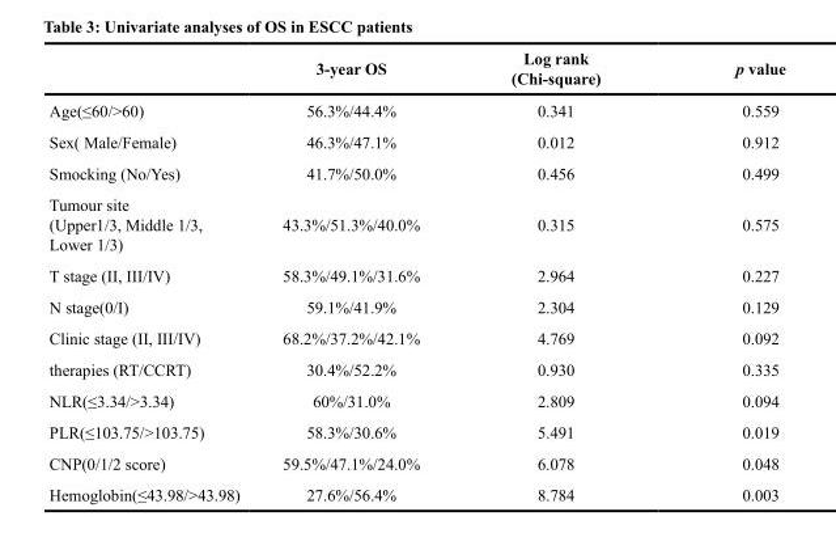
<table><thead><tr><td></td><td>3-year OS</td><td>Log rank (Chi-square)</td><td>p value</td></tr></thead><tbody><tr><td>Age(≤60/&gt;60)</td><td>56.3%/44.4%</td><td>0.341</td><td>0.559</td></tr><tr><td>Sex( Male/Female)</td><td>46.3%/47.1%</td><td>0.012</td><td>0.912</td></tr><tr><td>Smocking (No/Yes)</td><td>41.7%/50.0%</td><td>0.456</td><td>0.499</td></tr><tr><td>Tumour site (Upper1/3, Middle 1/3, Lower 1/3)</td><td>43.3%/51.3%/40.0%</td><td>0.315</td><td>0.575</td></tr><tr><td>T stage (II, III/IV)</td><td>58.3%/49.1%/31.6%</td><td>2.964</td><td>0.227</td></tr><tr><td>N stage(0/I)</td><td>59.1%/41.9%</td><td>2.304</td><td>0.129</td></tr><tr><td>Clinic stage (II, III/IV)</td><td>68.2%/37.2%/42.1%</td><td>4.769</td><td>0.092</td></tr><tr><td>therapies (RT/CCRT)</td><td>30.4%/52.2%</td><td>0.930</td><td>0.335</td></tr><tr><td>NLR(≤3.34/&gt;3.34)</td><td>60%/31.0%</td><td>2.809</td><td>0.094</td></tr><tr><td>PLR(≤103.75/&gt;103.75)</td><td>58.3%/30.6%</td><td>5.491</td><td>0.019</td></tr><tr><td>CNP(0/1/2 score)</td><td>59.5%/47.1%/24.0%</td><td>6.078</td><td>0.048</td></tr><tr><td>Hemoglobin(≤43.98/&gt;43.98)</td><td>27.6%/56.4%</td><td>8.784</td><td>0.003</td></tr></tbody></table>